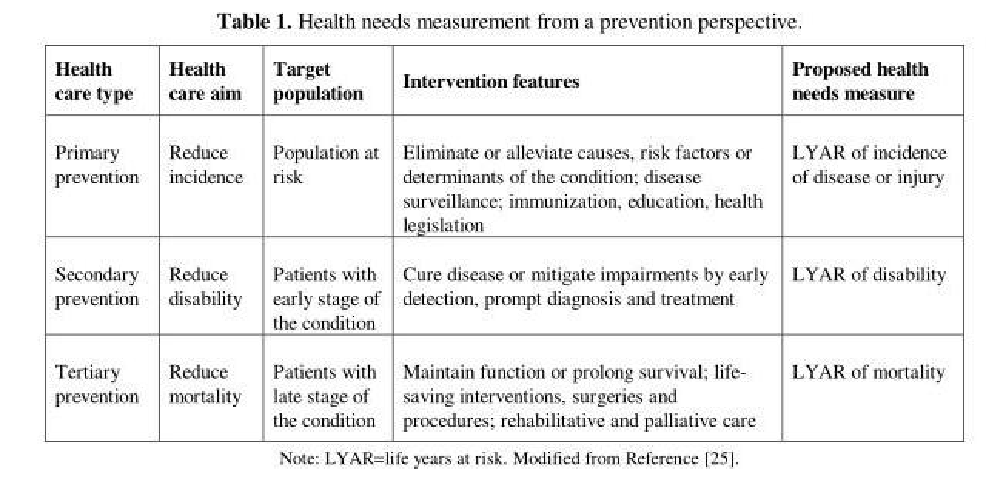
<table><thead><tr><td>Health care type</td><td>Health care aim</td><td>Target population</td><td>Intervention features</td><td>Proposed health needs measure</td></tr></thead><tbody><tr><td>Primary prevention</td><td>Reduce incidence</td><td>Population at risk</td><td>Eliminate or alleviate causes, risk factors or determinants of the condition; disease surveillance; immunization, education, health legislation</td><td>LYAR of incidence of disease or injury</td></tr><tr><td>Secondary prevention</td><td>Reduce disability</td><td>Patients with early stage of the condition</td><td>Cure disease or mitigate impairments by early detection, prompt diagnosis and treatment</td><td>LYAR of disability</td></tr><tr><td>Tertiary prevention</td><td>Reduce mortality</td><td>Patients with late stage of the condition</td><td>Maintain function or prolong survival; life- saving interventions, surgeries and procedures; rehabilitative and palliative care</td><td>LYAR of mortality</td></tr></tbody></table>